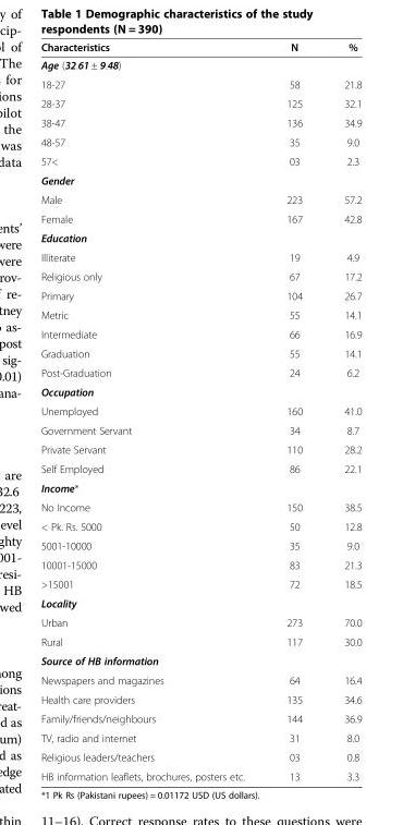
<table><thead><tr><td>Characteristics</td><td>N</td><td>%</td></tr></thead><tbody><tr><td colspan="3">Age (32.61 ± 9.48)</td></tr><tr><td>18-27</td><td>58</td><td>21.8</td></tr><tr><td>28-37</td><td>125</td><td>32.1</td></tr><tr><td>38-47</td><td>136</td><td>34.9</td></tr><tr><td>48-57</td><td>35</td><td>9.0</td></tr><tr><td>57&lt;</td><td>03</td><td>2.3</td></tr><tr><td colspan="3">Gender</td></tr><tr><td>Male</td><td>223</td><td>57.2</td></tr><tr><td>Female</td><td>167</td><td>42.8</td></tr><tr><td colspan="3">Education</td></tr><tr><td>Illiterate</td><td>19</td><td>4.9</td></tr><tr><td>Religious only</td><td>67</td><td>17.2</td></tr><tr><td>Primary</td><td>104</td><td>26.7</td></tr><tr><td>Metric</td><td>55</td><td>14.1</td></tr><tr><td>Intermediate</td><td>66</td><td>16.9</td></tr><tr><td>Graduation</td><td>55</td><td>14.1</td></tr><tr><td>Post-Graduation</td><td>24</td><td>6.2</td></tr><tr><td colspan="3">Occupation</td></tr><tr><td>Unemployed</td><td>160</td><td>41.0</td></tr><tr><td>Government Servant</td><td>34</td><td>8.7</td></tr><tr><td>Private Servant</td><td>110</td><td>28.2</td></tr><tr><td>Self Employed</td><td>86</td><td>22.1</td></tr><tr><td colspan="3">Income*</td></tr><tr><td>No Income</td><td>150</td><td>38.5</td></tr><tr><td>&lt; Pk. Rs. 5000</td><td>50</td><td>12.8</td></tr><tr><td>5001-10000</td><td>35</td><td>9.0</td></tr><tr><td>10001-15000</td><td>83</td><td>21.3</td></tr><tr><td>&gt;15001</td><td>72</td><td>18.5</td></tr><tr><td colspan="3">Locality</td></tr><tr><td>Urban</td><td>273</td><td>70.0</td></tr><tr><td>Rural</td><td>117</td><td>30.0</td></tr><tr><td colspan="3">Source of HB information</td></tr><tr><td>Newspapers and magazines</td><td>64</td><td>16.4</td></tr><tr><td>Health care providers</td><td>135</td><td>34.6</td></tr><tr><td>Family/friends/neighbours</td><td>144</td><td>36.9</td></tr><tr><td>TV, radio and internet</td><td>31</td><td>8.0</td></tr><tr><td>Religious leaders/teachers</td><td>03</td><td>0.8</td></tr><tr><td>HB information leaflets, brochures, posters etc.</td><td>13</td><td>3.3</td></tr></tbody></table>